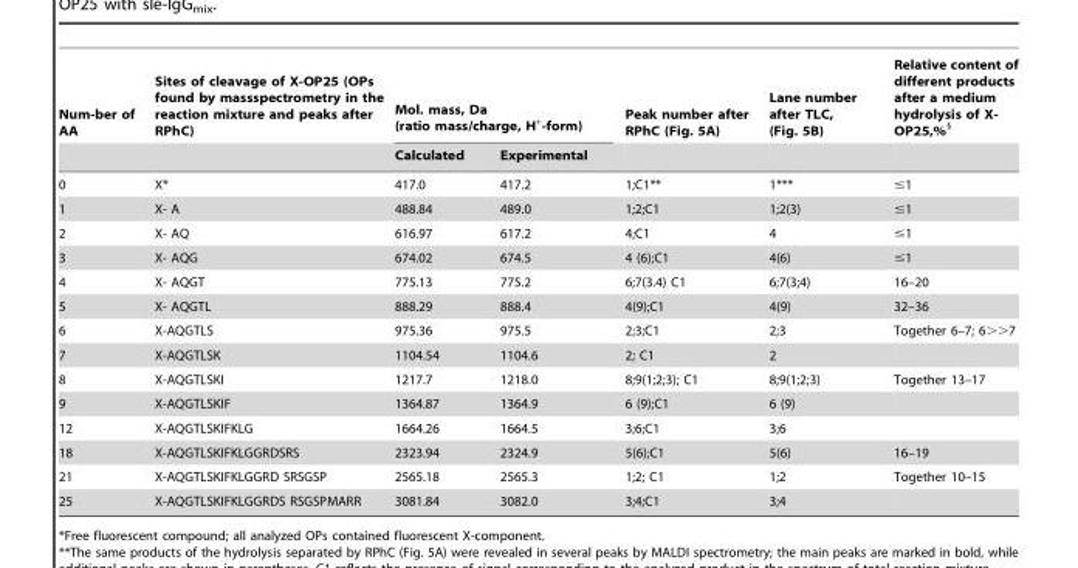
<table><thead><tr><td rowspan="2">Num-ber of AA</td><td rowspan="2">Sites of cleavage of X-OP25 (OPs found by massspectrometry in the reaction mixture and peaks after RPhC)</td><td colspan="2">Mol. mass, Da (ratio mass/charge, H<sup>+</sup>-form)</td><td rowspan="2">Peak number after RPhC (Fig. 5A)</td><td rowspan="2">Lane number after TLC, (Fig. 5B)</td><td rowspan="2">Relative content of different products after a medium hydrolysis of X- OP25,%<sup>§</sup></td></tr><tr><td>Calculated</td><td>Experimental</td></tr></thead><tbody><tr><td>0</td><td>X*</td><td>417.0</td><td>417.2</td><td>1;C1**</td><td>1***</td><td>≤1</td></tr><tr><td>1</td><td>X- A</td><td>488.84</td><td>489.0</td><td>1;2;C1</td><td>1;2(3)</td><td>≤1</td></tr><tr><td>2</td><td>X- AQ</td><td>616.97</td><td>617.2</td><td>4;C1</td><td>4</td><td>≤1</td></tr><tr><td>3</td><td>X- AQG</td><td>674.02</td><td>674.5</td><td>4 (6);C1</td><td>4(6)</td><td>≤1</td></tr><tr><td>4</td><td>X- AQGT</td><td>775.13</td><td>775.2</td><td>6;7(3.4) C1</td><td>6;7(3;4)</td><td>16–20</td></tr><tr><td>5</td><td>X- AQGTL</td><td>888.29</td><td>888.4</td><td>4(9);C1</td><td>4(9)</td><td>32–36</td></tr><tr><td>6</td><td>X-AQGTLS</td><td>975.36</td><td>975.5</td><td>2;3;C1</td><td>2;3</td><td>Together 6–7; 6&gt;&gt;7</td></tr><tr><td>7</td><td>X-AQGTLSK</td><td>1104.54</td><td>1104.6</td><td>2; C1</td><td>2</td><td></td></tr><tr><td>8</td><td>X-AQGTLSKI</td><td>1217.7</td><td>1218.0</td><td>8;9(1;2;3); C1</td><td>8;9(1;2;3)</td><td>Together 13–17</td></tr><tr><td>9</td><td>X-AQGTLSKIF</td><td>1364.87</td><td>1364.9</td><td>6 (9);C1</td><td>6 (9)</td><td></td></tr><tr><td>12</td><td>X-AQGTLSKIFKLG</td><td>1664.26</td><td>1664.5</td><td>3;6;C1</td><td>3;6</td><td></td></tr><tr><td>18</td><td>X-AQGTLSKIFKLGGRDSRS</td><td>2323.94</td><td>2324.9</td><td>5(6);C1</td><td>5(6)</td><td>16–19</td></tr><tr><td>21</td><td>X-AQGTLSKIFKLGGRD SRSGSP</td><td>2565.18</td><td>2565.3</td><td>1;2; C1</td><td>1;2</td><td>Together 10–15</td></tr><tr><td>25</td><td>X-AQGTLSKIFKLGGRDS RSGSPMARR</td><td>3081.84</td><td>3082.0</td><td>3;4;C1</td><td>3;4</td><td></td></tr></tbody></table>